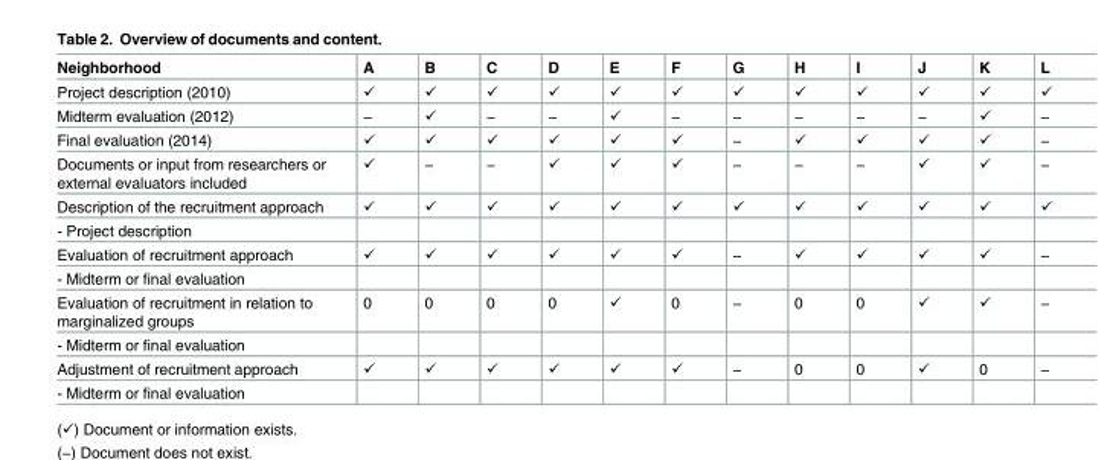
<table><thead><tr><td>Neighborhood</td><td>A</td><td>B</td><td>C</td><td>D</td><td>E</td><td>F</td><td>G</td><td>H</td><td>I</td><td>J</td><td>K</td><td>L</td></tr></thead><tbody><tr><td>Project description (2010)</td><td>✓</td><td>✓</td><td>✓</td><td>✓</td><td>✓</td><td>✓</td><td>✓</td><td>✓</td><td>✓</td><td>✓</td><td>✓</td><td>✓</td></tr><tr><td>Midterm evaluation (2012)</td><td>−</td><td>✓</td><td>−</td><td>−</td><td>✓</td><td>−</td><td>−</td><td>−</td><td>−</td><td>−</td><td>✓</td><td>−</td></tr><tr><td>Final evaluation (2014)</td><td>✓</td><td>✓</td><td>✓</td><td>✓</td><td>✓</td><td>✓</td><td>−</td><td>✓</td><td>✓</td><td>✓</td><td>✓</td><td>−</td></tr><tr><td>Documents or input from researchers or external evaluators included</td><td>✓</td><td>−</td><td>−</td><td>✓</td><td>✓</td><td>✓</td><td>−</td><td>−</td><td>−</td><td>✓</td><td>✓</td><td>−</td></tr><tr><td>Description of the recruitment approach</td><td>✓</td><td>✓</td><td>✓</td><td>✓</td><td>✓</td><td>✓</td><td>✓</td><td>✓</td><td>✓</td><td>✓</td><td>✓</td><td>✓</td></tr><tr><td colspan="13">- Project description</td></tr><tr><td>Evaluation of recruitment approach</td><td>✓</td><td>✓</td><td>✓</td><td>✓</td><td>✓</td><td>✓</td><td>−</td><td>✓</td><td>✓</td><td>✓</td><td>✓</td><td>−</td></tr><tr><td colspan="13">- Midterm or final evaluation</td></tr><tr><td>Evaluation of recruitment in relation to marginalized groups</td><td>0</td><td>0</td><td>0</td><td>0</td><td>✓</td><td>0</td><td>−</td><td>0</td><td>0</td><td>✓</td><td>✓</td><td>−</td></tr><tr><td colspan="13">- Midterm or final evaluation</td></tr><tr><td>Adjustment of recruitment approach</td><td>✓</td><td>✓</td><td>✓</td><td>✓</td><td>✓</td><td>✓</td><td>−</td><td>0</td><td>0</td><td>✓</td><td>0</td><td>−</td></tr><tr><td>- Midterm or final evaluation</td><td></td><td></td><td></td><td></td><td></td><td></td><td></td><td></td><td></td><td></td><td></td><td></td></tr></tbody></table>